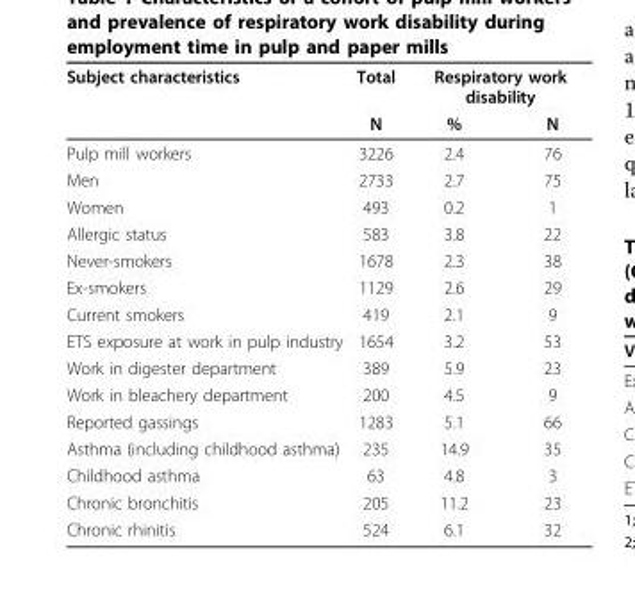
<table><thead><tr><td rowspan="2">Subject characteristics</td><td rowspan="2">Total N</td><td colspan="2">Respiratory work disability</td></tr><tr><td>%</td><td>N</td></tr></thead><tbody><tr><td>Pulp mill workers</td><td>3226</td><td>2.4</td><td>76</td></tr><tr><td>Men</td><td>2733</td><td>2.7</td><td>75</td></tr><tr><td>Women</td><td>493</td><td>0.2</td><td>1</td></tr><tr><td>Allergic status</td><td>583</td><td>3.8</td><td>22</td></tr><tr><td>Never-smokers</td><td>1678</td><td>2.3</td><td>38</td></tr><tr><td>Ex-smokers</td><td>1129</td><td>2.6</td><td>29</td></tr><tr><td>Current smokers</td><td>419</td><td>2.1</td><td>9</td></tr><tr><td>ETS exposure at work in pulp industry</td><td>1654</td><td>3.2</td><td>53</td></tr><tr><td>Work in digester department</td><td>389</td><td>5.9</td><td>23</td></tr><tr><td>Work in bleachery department</td><td>200</td><td>4.5</td><td>9</td></tr><tr><td>Reported gassings</td><td>1283</td><td>5.1</td><td>66</td></tr><tr><td>Asthma (including childhood asthma)</td><td>235</td><td>14.9</td><td>35</td></tr><tr><td>Childhood asthma</td><td>63</td><td>4.8</td><td>3</td></tr><tr><td>Chronic bronchitis</td><td>205</td><td>11.2</td><td>23</td></tr><tr><td>Chronic rhinitis</td><td>524</td><td>6.1</td><td>32</td></tr></tbody></table>